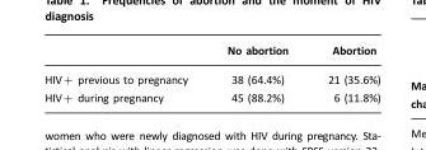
<table><thead><tr><td></td><td>No abortion</td><td>Abortion</td></tr></thead><tbody><tr><td>HIV+ previous to pregnancy</td><td>38 (64.4%)</td><td>21 (35.6%)</td></tr><tr><td>HIV+ during pregnancy</td><td>45 (88.2%)</td><td>6 (11.8%)</td></tr></tbody></table>